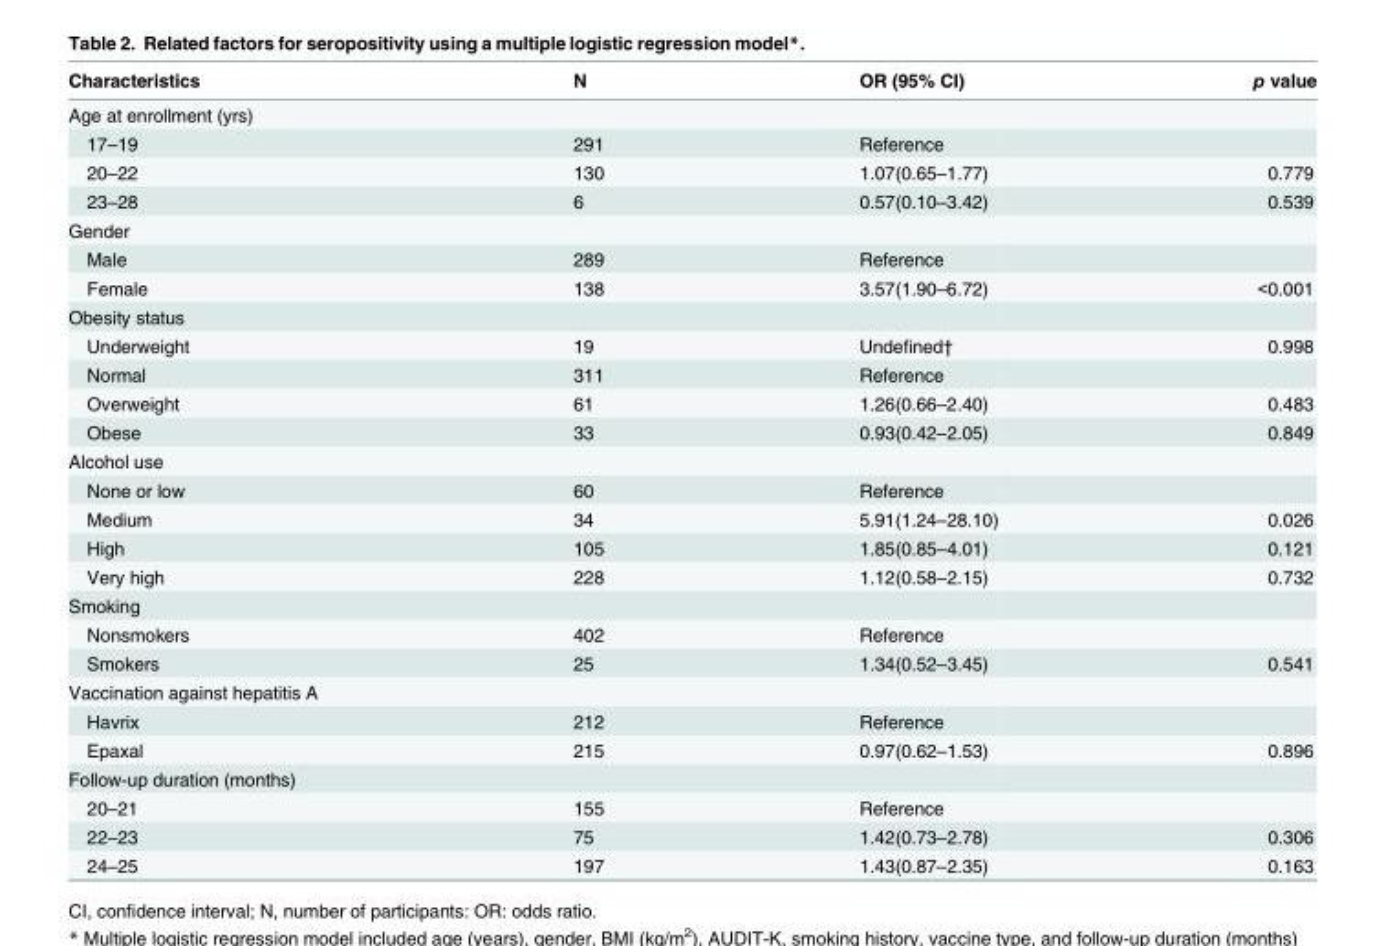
<table><thead><tr><td>Characteristics</td><td>N</td><td>OR (95% CI)</td><td>p value</td></tr></thead><tbody><tr><td colspan="4">Age at enrollment (yrs)</td></tr><tr><td>17–19</td><td>291</td><td>Reference</td><td></td></tr><tr><td>20–22</td><td>130</td><td>1.07(0.65–1.77)</td><td>0.779</td></tr><tr><td>23–28</td><td>6</td><td>0.57(0.10–3.42)</td><td>0.539</td></tr><tr><td colspan="4">Gender</td></tr><tr><td>Male</td><td>289</td><td>Reference</td><td></td></tr><tr><td>Female</td><td>138</td><td>3.57(1.90–6.72)</td><td>&lt;0.001</td></tr><tr><td colspan="4">Obesity status</td></tr><tr><td>Underweight</td><td>19</td><td>Undefined†</td><td>0.998</td></tr><tr><td>Normal</td><td>311</td><td>Reference</td><td></td></tr><tr><td>Overweight</td><td>61</td><td>1.26(0.66–2.40)</td><td>0.483</td></tr><tr><td>Obese</td><td>33</td><td>0.93(0.42–2.05)</td><td>0.849</td></tr><tr><td colspan="4">Alcohol use</td></tr><tr><td>None or low</td><td>60</td><td>Reference</td><td></td></tr><tr><td>Medium</td><td>34</td><td>5.91(1.24–28.10)</td><td>0.026</td></tr><tr><td>High</td><td>105</td><td>1.85(0.85–4.01)</td><td>0.121</td></tr><tr><td>Very high</td><td>228</td><td>1.12(0.58–2.15)</td><td>0.732</td></tr><tr><td colspan="4">Smoking</td></tr><tr><td>Nonsmokers</td><td>402</td><td>Reference</td><td></td></tr><tr><td>Smokers</td><td>25</td><td>1.34(0.52–3.45)</td><td>0.541</td></tr><tr><td colspan="4">Vaccination against hepatitis A</td></tr><tr><td>Havrix</td><td>212</td><td>Reference</td><td></td></tr><tr><td>Epaxal</td><td>215</td><td>0.97(0.62–1.53)</td><td>0.896</td></tr><tr><td colspan="4">Follow-up duration (months)</td></tr><tr><td>20–21</td><td>155</td><td>Reference</td><td></td></tr><tr><td>22–23</td><td>75</td><td>1.42(0.73–2.78)</td><td>0.306</td></tr><tr><td>24–25</td><td>197</td><td>1.43(0.87–2.35)</td><td>0.163</td></tr></tbody></table>